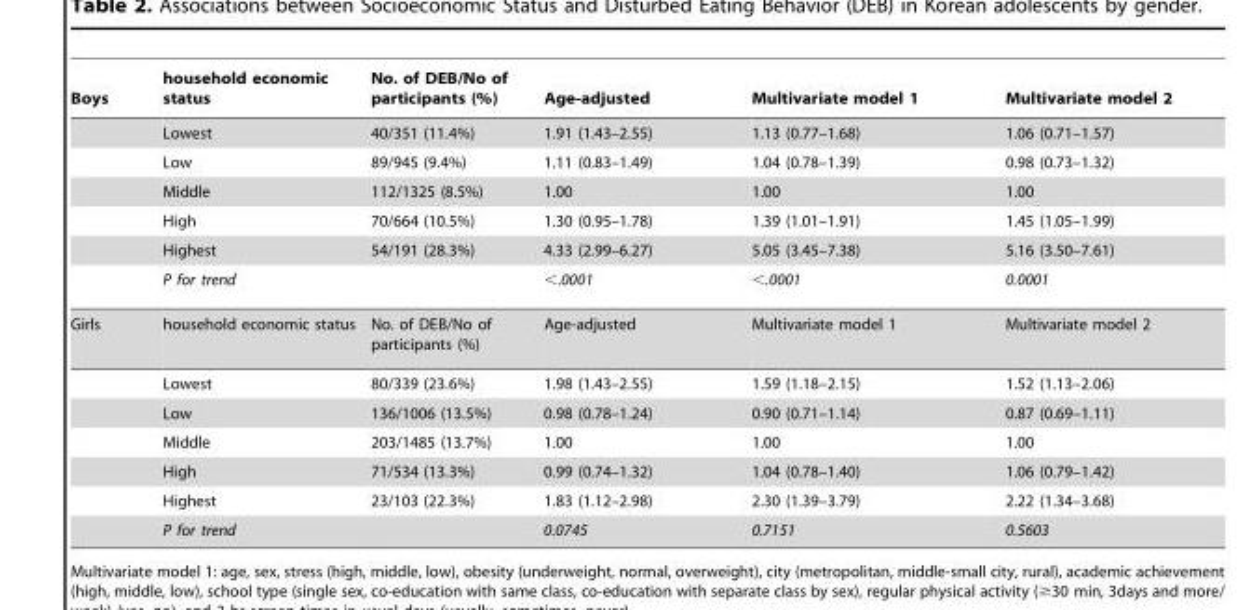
<table><thead><tr><td>Boys</td><td>household economic status</td><td>No. of DEB/No of participants (%)</td><td>Age-adjusted</td><td>Multivariate model 1</td><td>Multivariate model 2</td></tr></thead><tbody><tr><td></td><td>Lowest</td><td>40/351 (11.4%)</td><td>1.91 (1.43–2.55)</td><td>1.13 (0.77–1.68)</td><td>1.06 (0.71–1.57)</td></tr><tr><td></td><td>Low</td><td>89/945 (9.4%)</td><td>1.11 (0.83–1.49)</td><td>1.04 (0.78–1.39)</td><td>0.98 (0.73–1.32)</td></tr><tr><td></td><td>Middle</td><td>112/1325 (8.5%)</td><td>1.00</td><td>1.00</td><td>1.00</td></tr><tr><td></td><td>High</td><td>70/664 (10.5%)</td><td>1.30 (0.95–1.78)</td><td>1.39 (1.01–1.91)</td><td>1.45 (1.05–1.99)</td></tr><tr><td></td><td>Highest</td><td>54/191 (28.3%)</td><td>4.33 (2.99–6.27)</td><td>5.05 (3.45–7.38)</td><td>5.16 (3.50–7.61)</td></tr><tr><td></td><td>P for trend</td><td></td><td>&lt;.0001</td><td>&lt;.0001</td><td>0.0001</td></tr><tr><td rowspan="7">Girls</td><td>household economic status</td><td>No. of DEB/No of participants (%)</td><td>Age-adjusted</td><td>Multivariate model 1</td><td>Multivariate model 2</td></tr><tr><td>Lowest</td><td>80/339 (23.6%)</td><td>1.98 (1.43–2.55)</td><td>1.59 (1.18–2.15)</td><td>1.52 (1.13–2.06)</td></tr><tr><td>Low</td><td>136/1006 (13.5%)</td><td>0.98 (0.78–1.24)</td><td>0.90 (0.71–1.14)</td><td>0.87 (0.69–1.11)</td></tr><tr><td>Middle</td><td>203/1485 (13.7%)</td><td>1.00</td><td>1.00</td><td>1.00</td></tr><tr><td>High</td><td>71/534 (13.3%)</td><td>0.99 (0.74–1.32)</td><td>1.04 (0.78–1.40)</td><td>1.06 (0.79–1.42)</td></tr><tr><td>Highest</td><td>23/103 (22.3%)</td><td>1.83 (1.12–2.98)</td><td>2.30 (1.39–3.79)</td><td>2.22 (1.34–3.68)</td></tr><tr><td>P for trend</td><td></td><td>0.0745</td><td>0.7151</td><td>0.5603</td></tr></tbody></table>